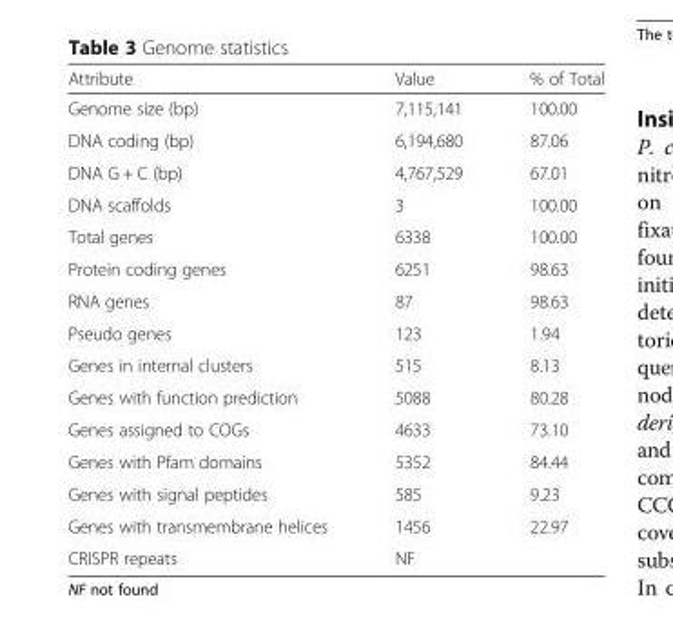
<table><thead><tr><td>Attribute</td><td>Value</td><td>% of Total</td></tr></thead><tbody><tr><td>Genome size (bp)</td><td>7,115,141</td><td>100.00</td></tr><tr><td>DNA coding (bp)</td><td>6,194,680</td><td>87.06</td></tr><tr><td>DNA G + C (bp)</td><td>4,767,529</td><td>67.01</td></tr><tr><td>DNA scaffolds</td><td>3</td><td>100.00</td></tr><tr><td>Total genes</td><td>6338</td><td>100.00</td></tr><tr><td>Protein coding genes</td><td>6251</td><td>98.63</td></tr><tr><td>RNA genes</td><td>87</td><td>98.63</td></tr><tr><td>Pseudo genes</td><td>123</td><td>1.94</td></tr><tr><td>Genes in internal clusters</td><td>515</td><td>8.13</td></tr><tr><td>Genes with function prediction</td><td>5088</td><td>80.28</td></tr><tr><td>Genes assigned to COGs</td><td>4633</td><td>73.10</td></tr><tr><td>Genes with Pfam domains</td><td>5352</td><td>84.44</td></tr><tr><td>Genes with signal peptides</td><td>585</td><td>9.23</td></tr><tr><td>Genes with transmembrane helices</td><td>1456</td><td>22.97</td></tr><tr><td>CRISPR repeats</td><td>NF</td><td></td></tr></tbody></table>